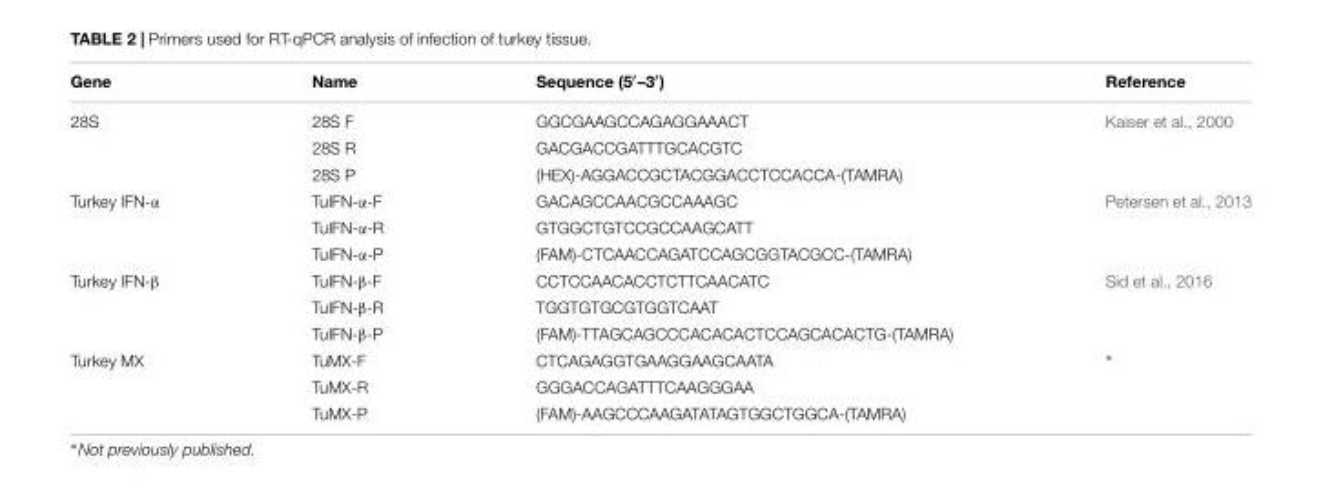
<table><thead><tr><td>Gene</td><td>Name</td><td>Sequence (5′–3′)</td><td>Reference</td></tr></thead><tbody><tr><td rowspan="3">28S</td><td>28S F</td><td>GGCGAAGCCAGAGGAAACT</td><td>Kaiser et al., 2000</td></tr><tr><td>28S R</td><td>GACGACCGATTTGCACGTC</td><td></td></tr><tr><td>28S P</td><td>(HEX)-AGGACCGCTACGGACCTCCACCA-(TAMRA)</td><td></td></tr><tr><td rowspan="3">Turkey IFN-α</td><td>TuIFN-α-F</td><td>GACAGCCAACGCCAAAGC</td><td>Petersen et al., 2013</td></tr><tr><td>TuIFN-α-R</td><td>GTGGCTGTCCGCCAAGCATT</td><td></td></tr><tr><td>TuIFN-α-P</td><td>(FAM)-CTCAACCAGATCCAGCGGTACGCC-(TAMRA)</td><td></td></tr><tr><td rowspan="3">Turkey IFN-β</td><td>TuIFN-β-F</td><td>CCTCCAACACCTCTTCAACATC</td><td>Sid et al., 2016</td></tr><tr><td>TuIFN-β-R</td><td>TGGTGTGCGTGGTCAAT</td><td></td></tr><tr><td>TuIFN-β-P</td><td>(FAM)-TTAGCAGCCCACACACTCCAGCACACTG-(TAMRA)</td><td></td></tr><tr><td rowspan="3">Turkey MX</td><td>TuMX-F</td><td>CTCAGAGGTGAAGGAAGCAATA</td><td>∗</td></tr><tr><td>TuMX-R</td><td>GGGACCAGATTTCAAGGGAA</td><td></td></tr><tr><td>TuMX-P</td><td>(FAM)-AAGCCCAAGATATAGTGGCTGGCA-(TAMRA)</td><td></td></tr></tbody></table>